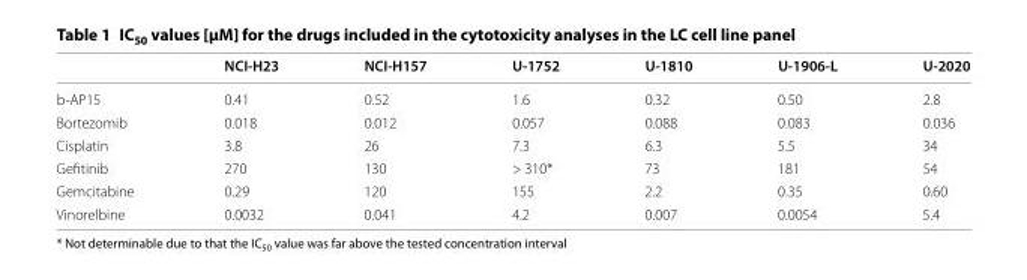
<table><thead><tr><td></td><td>NCI-H23</td><td>NCI-H157</td><td>U-1752</td><td>U-1810</td><td>U-1906-L</td><td>U-2020</td></tr></thead><tbody><tr><td>b-AP15</td><td>0.41</td><td>0.52</td><td>1.6</td><td>0.32</td><td>0.50</td><td>2.8</td></tr><tr><td>Bortezomib</td><td>0.018</td><td>0.012</td><td>0.057</td><td>0.088</td><td>0.083</td><td>0.036</td></tr><tr><td>Cisplatin</td><td>3.8</td><td>26</td><td>7.3</td><td>6.3</td><td>5.5</td><td>34</td></tr><tr><td>Gefitinib</td><td>270</td><td>130</td><td>&gt; 310*</td><td>73</td><td>181</td><td>54</td></tr><tr><td>Gemcitabine</td><td>0.29</td><td>120</td><td>155</td><td>2.2</td><td>0.35</td><td>0.60</td></tr><tr><td>Vinorelbine</td><td>0.0032</td><td>0.041</td><td>4.2</td><td>0.007</td><td>0.0054</td><td>5.4</td></tr></tbody></table>